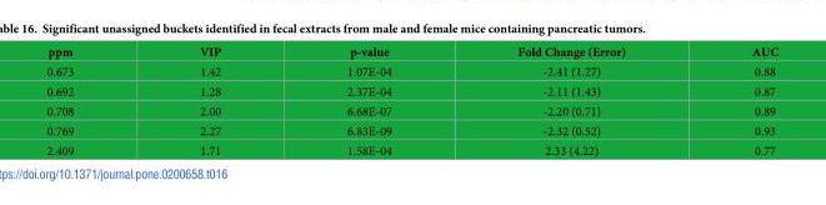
<table><thead><tr><td>ppm</td><td>VIP</td><td>p-value</td><td>Fold Change (Error)</td><td>AUC</td></tr></thead><tbody><tr><td>0.673</td><td>1.42</td><td>1.07E-04</td><td>-2.41 (1.27)</td><td>0.88</td></tr><tr><td>0.692</td><td>1.28</td><td>2.37E-04</td><td>-2.11 (1.43)</td><td>0.87</td></tr><tr><td>0.708</td><td>2.00</td><td>6.68E-07</td><td>-2.20 (0.71)</td><td>0.89</td></tr><tr><td>0.769</td><td>2.27</td><td>6.83E-09</td><td>-2.32 (0.52)</td><td>0.93</td></tr><tr><td>2.409</td><td>1.71</td><td>1.58E-04</td><td>2.33 (4.22)</td><td>0.77</td></tr></tbody></table>